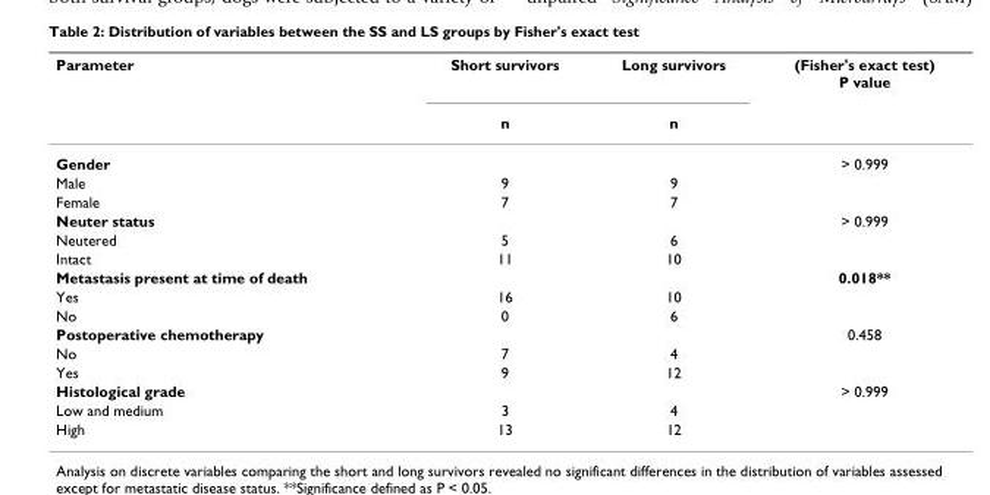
<table><thead><tr><td rowspan="2">Parameter</td><td rowspan="2">Short survivors n</td><td rowspan="2">Long survivors n</td><td rowspan="2">(Fisher&#x27;s exact test) P value</td></tr><tr></tr></thead><tbody><tr><td>Gender</td><td></td><td></td><td>&gt; 0.999</td></tr><tr><td>Male</td><td>9</td><td>9</td><td></td></tr><tr><td>Female</td><td>7</td><td>7</td><td></td></tr><tr><td>Neuter status</td><td></td><td></td><td>&gt; 0.999</td></tr><tr><td>Neutered</td><td>5</td><td>6</td><td></td></tr><tr><td>Intact</td><td>11</td><td>10</td><td></td></tr><tr><td>Metastasis present at time of death</td><td></td><td></td><td>0.018**</td></tr><tr><td>Yes</td><td>16</td><td>10</td><td></td></tr><tr><td>No</td><td>0</td><td>6</td><td></td></tr><tr><td>Postoperative chemotherapy</td><td></td><td></td><td>0.458</td></tr><tr><td>No</td><td>7</td><td>4</td><td></td></tr><tr><td>Yes</td><td>9</td><td>12</td><td></td></tr><tr><td>Histological grade</td><td></td><td></td><td>&gt; 0.999</td></tr><tr><td>Low and medium</td><td>3</td><td>4</td><td></td></tr><tr><td>High</td><td>13</td><td>12</td><td></td></tr></tbody></table>